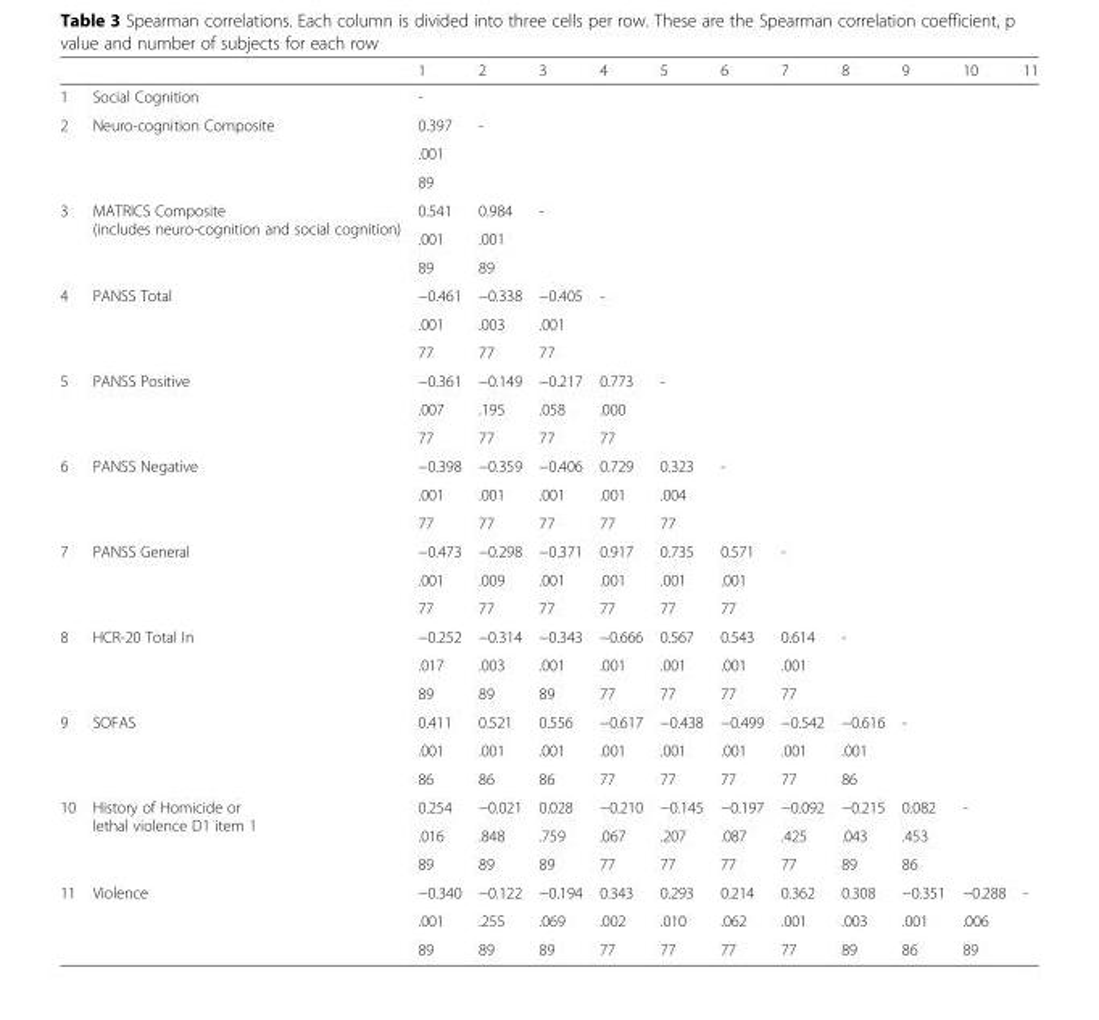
<table><thead><tr><td></td><td></td><td>1</td><td>2</td><td>3</td><td>4</td><td>5</td><td>6</td><td>7</td><td>8</td><td>9</td><td>10</td><td>11</td></tr></thead><tbody><tr><td>1</td><td>Social Cognition</td><td>-</td><td></td><td></td><td></td><td></td><td></td><td></td><td></td><td></td><td></td><td></td></tr><tr><td rowspan="3">2</td><td>Neuro-cognition Composite</td><td>0.397</td><td>-</td><td></td><td></td><td></td><td></td><td></td><td></td><td></td><td></td><td></td></tr><tr><td></td><td>.001</td><td></td><td></td><td></td><td></td><td></td><td></td><td></td><td></td><td></td><td></td></tr><tr><td></td><td>89</td><td></td><td></td><td></td><td></td><td></td><td></td><td></td><td></td><td></td><td></td></tr><tr><td rowspan="3">3</td><td rowspan="2">MATRICS Composite (includes neuro-cognition and social cognition)</td><td>0.541</td><td>0.984</td><td>-</td><td></td><td></td><td></td><td></td><td></td><td></td><td></td><td></td></tr><tr><td>.001</td><td>.001</td><td></td><td></td><td></td><td></td><td></td><td></td><td></td><td></td><td></td></tr><tr><td></td><td>89</td><td>89</td><td></td><td></td><td></td><td></td><td></td><td></td><td></td><td></td><td></td></tr><tr><td rowspan="3">4</td><td>PANSS Total</td><td>−0.461</td><td>−0.338</td><td>−0.405</td><td>-</td><td></td><td></td><td></td><td></td><td></td><td></td><td></td></tr><tr><td></td><td>.001</td><td>.003</td><td>.001</td><td></td><td></td><td></td><td></td><td></td><td></td><td></td><td></td></tr><tr><td></td><td>77</td><td>77</td><td>77</td><td></td><td></td><td></td><td></td><td></td><td></td><td></td><td></td></tr><tr><td rowspan="3">5</td><td>PANSS Positive</td><td>−0.361</td><td>−0.149</td><td>−0.217</td><td>0.773</td><td>-</td><td></td><td></td><td></td><td></td><td></td><td></td></tr><tr><td></td><td>.007</td><td>.195</td><td>.058</td><td>.000</td><td></td><td></td><td></td><td></td><td></td><td></td><td></td></tr><tr><td></td><td>77</td><td>77</td><td>77</td><td>77</td><td></td><td></td><td></td><td></td><td></td><td></td><td></td></tr><tr><td rowspan="3">6</td><td>PANSS Negative</td><td>−0.398</td><td>−0.359</td><td>−0.406</td><td>0.729</td><td>0.323</td><td>-</td><td></td><td></td><td></td><td></td><td></td></tr><tr><td></td><td>.001</td><td>.001</td><td>.001</td><td>.001</td><td>.004</td><td></td><td></td><td></td><td></td><td></td><td></td></tr><tr><td></td><td>77</td><td>77</td><td>77</td><td>77</td><td>77</td><td></td><td></td><td></td><td></td><td></td><td></td></tr><tr><td rowspan="3">7</td><td>PANSS General</td><td>−0.473</td><td>−0.298</td><td>−0.371</td><td>0.917</td><td>0.735</td><td>0.571</td><td>-</td><td></td><td></td><td></td><td></td></tr><tr><td></td><td>.001</td><td>.009</td><td>.001</td><td>.001</td><td>.001</td><td>.001</td><td></td><td></td><td></td><td></td><td></td></tr><tr><td></td><td>77</td><td>77</td><td>77</td><td>77</td><td>77</td><td>77</td><td></td><td></td><td></td><td></td><td></td></tr><tr><td rowspan="3">8</td><td>HCR-20 Total In</td><td>−0.252</td><td>−0.314</td><td>−0.343</td><td>−0.666</td><td>0.567</td><td>0.543</td><td>0.614</td><td>-</td><td></td><td></td><td></td></tr><tr><td></td><td>.017</td><td>.003</td><td>.001</td><td>.001</td><td>.001</td><td>.001</td><td>.001</td><td></td><td></td><td></td><td></td></tr><tr><td></td><td>89</td><td>89</td><td>89</td><td>77</td><td>77</td><td>77</td><td>77</td><td></td><td></td><td></td><td></td></tr><tr><td rowspan="3">9</td><td>SOFAS</td><td>0.411</td><td>0.521</td><td>0.556</td><td>−0.617</td><td>−0.438</td><td>−0.499</td><td>−0.542</td><td>−0.616</td><td>-</td><td></td><td></td></tr><tr><td></td><td>.001</td><td>.001</td><td>.001</td><td>.001</td><td>.001</td><td>.001</td><td>.001</td><td>.001</td><td></td><td></td><td></td></tr><tr><td></td><td>86</td><td>86</td><td>86</td><td>77</td><td>77</td><td>77</td><td>77</td><td>86</td><td></td><td></td><td></td></tr><tr><td rowspan="3">10</td><td rowspan="2">History of Homicide or lethal violence D1 item 1</td><td>0.254</td><td>−0.021</td><td>0.028</td><td>−0.210</td><td>−0.145</td><td>−0.197</td><td>−0.092</td><td>−0.215</td><td>0.082</td><td>-</td><td></td></tr><tr><td>.016</td><td>.848</td><td>.759</td><td>.067</td><td>.207</td><td>.087</td><td>.425</td><td>.043</td><td>.453</td><td></td><td></td></tr><tr><td></td><td>89</td><td>89</td><td>89</td><td>77</td><td>77</td><td>77</td><td>77</td><td>89</td><td>86</td><td></td><td></td></tr><tr><td rowspan="3">11</td><td>Violence</td><td>−0.340</td><td>−0.122</td><td>−0.194</td><td>0.343</td><td>0.293</td><td>0.214</td><td>0.362</td><td>0.308</td><td>−0.351</td><td>−0.288</td><td>-</td></tr><tr><td></td><td>.001</td><td>.255</td><td>.069</td><td>.002</td><td>.010</td><td>.062</td><td>.001</td><td>.003</td><td>.001</td><td>.006</td><td></td></tr><tr><td></td><td>89</td><td>89</td><td>89</td><td>77</td><td>77</td><td>77</td><td>77</td><td>89</td><td>86</td><td>89</td><td></td></tr></tbody></table>